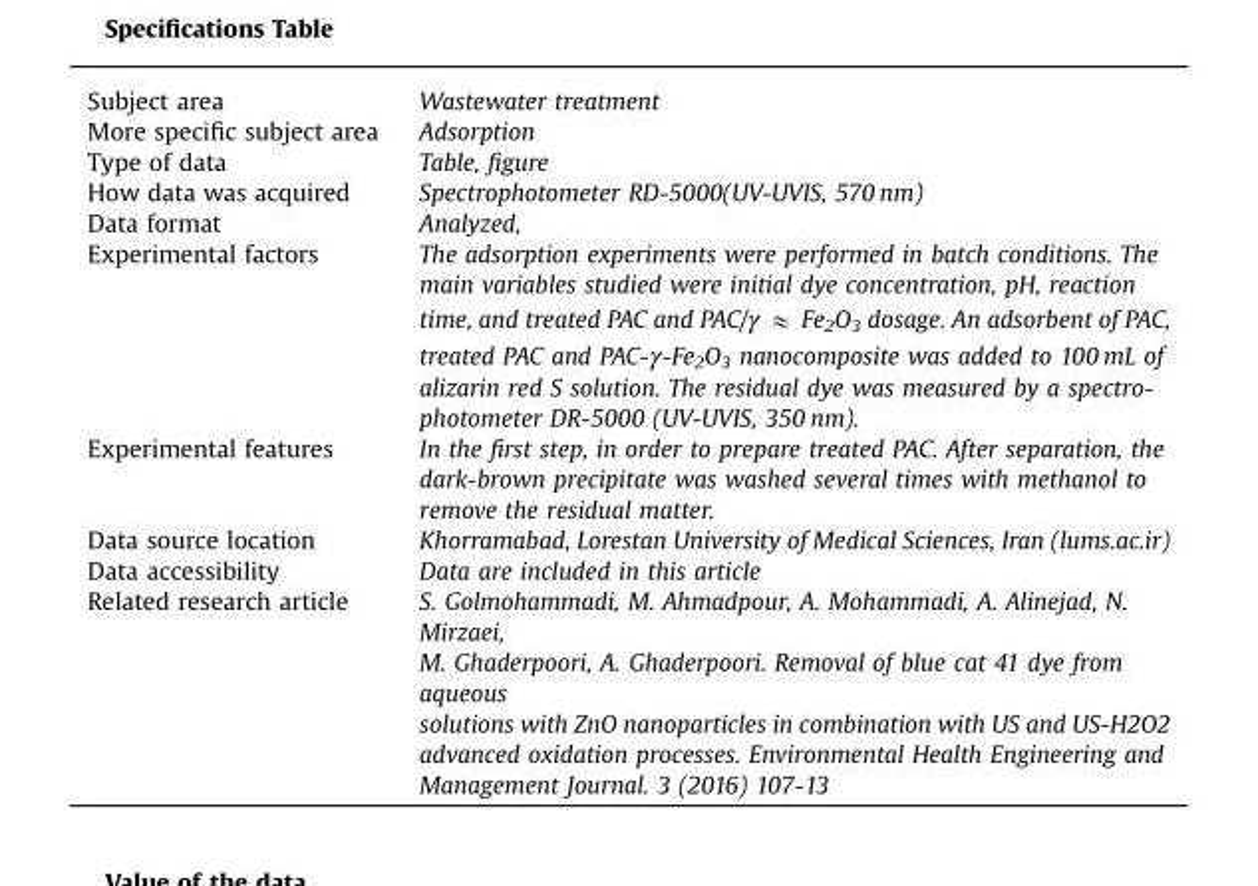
<table><tbody><tr><td>Subject area</td><td>Wastewater treatment</td></tr><tr><td>More specific subject area</td><td>Adsorption</td></tr><tr><td>Type of data</td><td>Table, figure</td></tr><tr><td>How data was acquired</td><td>Spectrophotometer RD-5000(UV-UVIS, 570 nm)</td></tr><tr><td>Data format</td><td>Analyzed,</td></tr><tr><td>Experimental factors</td><td>The adsorption experiments were performed in batch conditions. The main variables studied were initial dye concentration, pH, reaction time, and treated PAC and PAC/γ E Fe2O3 dosage. An adsorbent of PAC, treated PAC and PAC-γ-Fe2O3 nanocomposite was added to 100 mL of alizarin red S solution. The residual dye was measured by a spectro- photometer DR-5000 (UV-UVIS, 350 nm).</td></tr><tr><td>Experimental features</td><td>In the first step, in order to prepare treated PAC. After separation, the dark-brown precipitate was washed several times with methanol to remove the residual matter.</td></tr><tr><td>Data source location</td><td>Khorramabad, Lorestan University of Medical Sciences, Iran (lums.ac.ir)</td></tr><tr><td>Data accessibility</td><td>Data are included in this article</td></tr><tr><td>Related research article</td><td>S. Golmohammadi, M. Ahmadpour, A. Mohammadi, A. Alinejad, N. Mirzaei, M. Ghaderpoori, A. Ghaderpoori. Removal of blue cat 41 dye from aqueous solutions with ZnO nanoparticles in combination with US and US-H2O2 advanced oxidation processes. Environmental Health Engineering and Management Journal. 3 (2016) 107-13</td></tr></tbody></table>